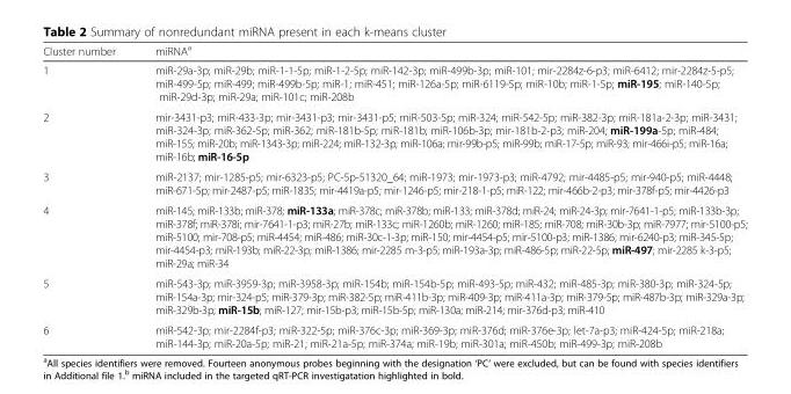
<table><thead><tr><td>Cluster number</td><td>miRNA<sup>a</sup></td></tr></thead><tbody><tr><td>1</td><td>miR-29a-3p; miR-29b; miR-1-1-5p; miR-1-2-5p; miR-142-3p; miR-499b-3p; miR-101; mir-2284z-6-p3; miR-6412; mir-2284z-5-p5; miR-499-5p; miR-499; miR-499b-5p; miR-1; miR-451; miR-126a-5p; miR-6119-5p; miR-10b; miR-1-5p; miR-195; miR-140-5p; miR-29d-3p; miR-29a; miR-101c; miR-208b</td></tr><tr><td>2</td><td>mir-3431-p3; miR-433-3p; mir-3431-p3; mir-3431-p5; miR-503-5p; miR-324; miR-542-5p; miR-382-3p; miR-181a-2-3p; miR-3431; miR-324-3p; miR-362-5p; miR-362; miR-181b-5p; miR-181b; miR-106b-3p; mir-181b-2-p3; miR-204; miR-199a-5p; miR-484; miR-155; miR-20b; miR-1343-3p; miR-224; miR-132-3p; miR-106a; mir-99b-p5; miR-99b; miR-17-5p; miR-93; mir-466i-p5; miR-16a; miR-16b; miR-16-5p</td></tr><tr><td>3</td><td>miR-2137; mir-1285-p5; mir-6323-p5; PC-5p-51320_64; miR-1973; mir-1973-p3; miR-4792; mir-4485-p5; mir-940-p5; miR-4448; miR-671-5p; mir-2487-p5; miR-1835; mir-4419a-p5; mir-1246-p5; mir-218-1-p5; miR-122; mir-466b-2-p3; mir-378f-p5; mir-4426-p3</td></tr><tr><td>4</td><td>miR-145; miR-133b; miR-378; miR-133a; miR-378c; miR-378b; miR-133; miR-378d; miR-24; miR-24-3p; mir-7641-1-p5; miR-133b-3p; miR-378f; miR-378i; mir-7641-1-p3; miR-27b; miR-133c; miR-1260b; miR-1260; miR-185; miR-708; miR-30b-3p; miR-7977; mir-5100-p5; miR-5100; mir-708-p5; miR-4454; miR-486; miR-30c-1-3p; miR-150; mir-4454-p5; mir-5100-p3; miR-1386; mir-6240-p3; miR-345-5p; mir-4454-p3; miR-193b; miR-22-3p; miR-1386; mir-2285 m-3-p5; miR-193a-3p; miR-486-5p; miR-22-5p; miR-497; mir-2285 k-3-p5; miR-29a; miR-34</td></tr><tr><td>5</td><td>miR-543-3p; miR-3959-3p; miR-3958-3p; miR-154b; miR-154b-5p; miR-493-5p; miR-432; miR-485-3p; miR-380-3p; miR-324-5p; miR-154a-3p; mir-324-p5; miR-379-3p; miR-382-5p; miR-411b-3p; miR-409-3p; miR-411a-3p; miR-379-5p; miR-487b-3p; miR-329a-3p; miR-329b-3p; miR-15b; miR-127; mir-15b-p3; miR-15b-5p; miR-130a; miR-214; mir-376d-p3; miR-410</td></tr><tr><td>6</td><td>miR-542-3p; mir-2284f-p3; miR-322-5p; miR-376c-3p; miR-369-3p; miR-376d; miR-376e-3p; let-7a-p3; miR-424-5p; miR-218a; miR-144-3p; miR-20a-5p; miR-21; miR-21a-5p; miR-374a; miR-19b; miR-301a; miR-450b; miR-499-3p; miR-208b</td></tr></tbody></table>